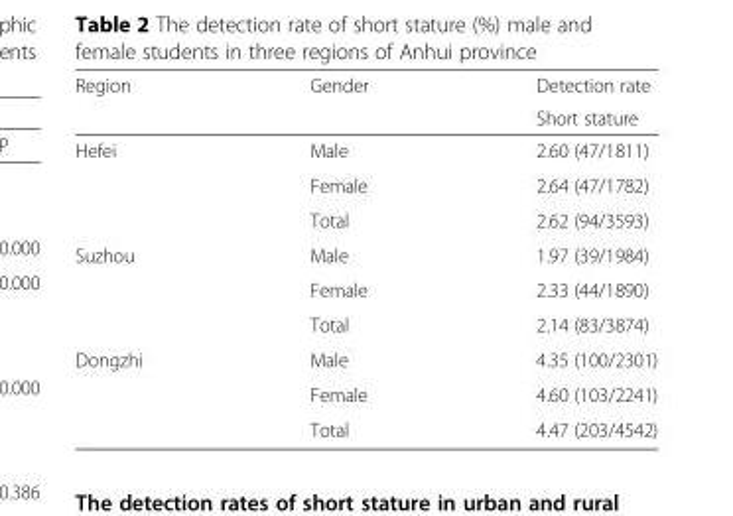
<table><thead><tr><td rowspan="2">Region</td><td rowspan="2">Gender</td><td rowspan="2">Detection rate Short stature</td></tr><tr></tr></thead><tbody><tr><td rowspan="3">Hefei</td><td>Male</td><td>2.60 (47/1811)</td></tr><tr><td>Female</td><td>2.64 (47/1782)</td></tr><tr><td>Total</td><td>2.62 (94/3593)</td></tr><tr><td rowspan="3">Suzhou</td><td>Male</td><td>1.97 (39/1984)</td></tr><tr><td>Female</td><td>2.33 (44/1890)</td></tr><tr><td>Total</td><td>2.14 (83/3874)</td></tr><tr><td rowspan="3">Dongzhi</td><td>Male</td><td>4.35 (100/2301)</td></tr><tr><td>Female</td><td>4.60 (103/2241)</td></tr><tr><td>Total</td><td>4.47 (203/4542)</td></tr></tbody></table>